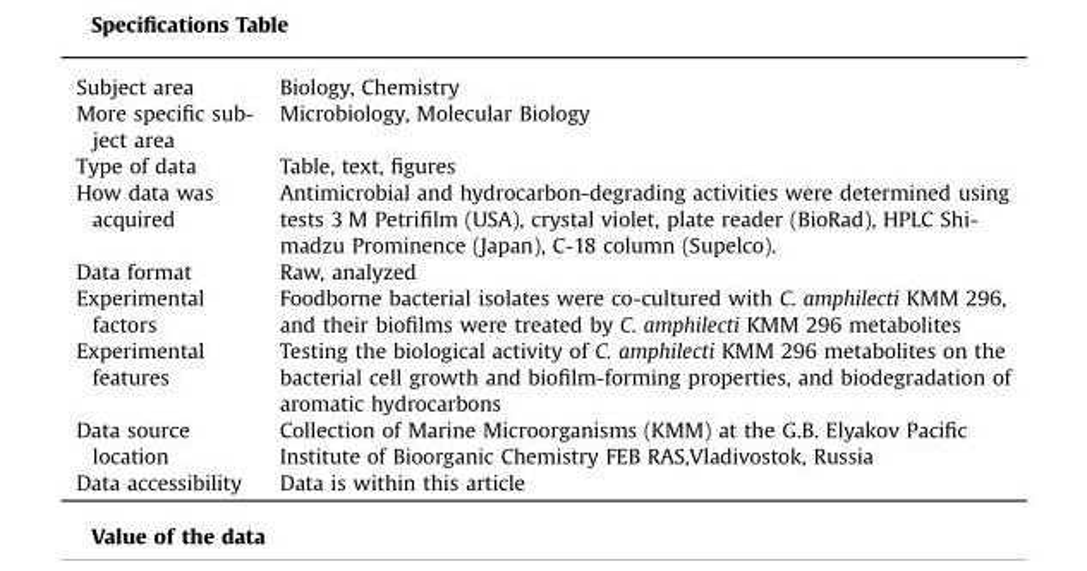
<table><tbody><tr><td>Subject area</td><td>Biology, Chemistry</td></tr><tr><td>More specific sub- ject area</td><td>Microbiology, Molecular Biology</td></tr><tr><td>Type of data</td><td>Table, text, figures</td></tr><tr><td>How data was acquired</td><td>Antimicrobial and hydrocarbon-degrading activities were determined using tests 3 M Petrifilm (USA), crystal violet, plate reader (BioRad), HPLC Shi- madzu Prominence (Japan), C-18 column (Supelco).</td></tr><tr><td>Data format</td><td>Raw, analyzed</td></tr><tr><td>Experimental factors</td><td>Foodborne bacterial isolates were co-cultured with C. amphilecti KMM 296, and their biofilms were treated by C. amphilecti KMM 296 metabolites</td></tr><tr><td>Experimental features</td><td>Testing the biological activity of C. amphilecti KMM 296 metabolites on the bacterial cell growth and biofilm-forming properties, and biodegradation of aromatic hydrocarbons</td></tr><tr><td>Data source location</td><td>Collection of Marine Microorganisms (KMM) at the G.B. Elyakov Pacific Institute of Bioorganic Chemistry FEB RAS,Vladivostok, Russia</td></tr><tr><td>Data accessibility</td><td>Data is within this article</td></tr></tbody></table>